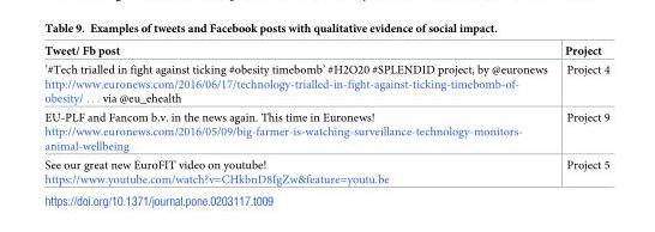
<table><thead><tr><td>Tweet/ Fb post</td><td>Project</td></tr></thead><tbody><tr><td>’#Tech trialled in fight against ticking #obesity timebomb’ #H2O20 #SPLENDID project, by @euronews http://www.euronews.com/2016/06/17/technology-trialled-in-fight-against-ticking-timebomb-of- obesity/ . . . via @eu_ehealth</td><td>Project 4</td></tr><tr><td>EU-PLF and Fancom b.v. in the news again. This time in Euronews! http://www.euronews.com/2016/05/09/big-farmer-is-watching-surveillance-technology-monitors- animal-wellbeing</td><td>Project 9</td></tr><tr><td>See our great new EuroFIT video on youtube! https://www.youtube.com/watch?v=CHkbnD8IgZw&amp;feature=youtu.be</td><td>Project 5</td></tr></tbody></table>